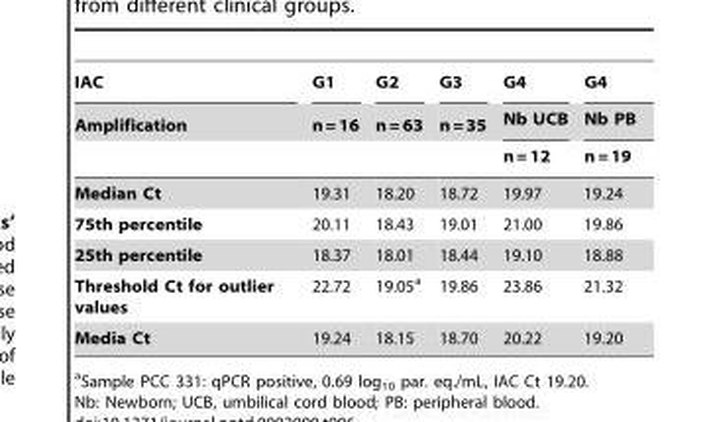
<table><thead><tr><td rowspan="3">IAC Amplification</td><td rowspan="3">G1 n = 16</td><td rowspan="3">G2 n = 63</td><td rowspan="3">G3 n = 35</td><td rowspan="3">G4 Nb UCB n = 12</td><td rowspan="3">G4 Nb PB n = 19</td></tr><tr></tr><tr></tr></thead><tbody><tr><td>Median Ct</td><td>19.31</td><td>18.20</td><td>18.72</td><td>19.97</td><td>19.24</td></tr><tr><td>75th percentile</td><td>20.11</td><td>18.43</td><td>19.01</td><td>21.00</td><td>19.86</td></tr><tr><td>25th percentile</td><td>18.37</td><td>18.01</td><td>18.44</td><td>19.10</td><td>18.88</td></tr><tr><td>Threshold Ct for outlier values</td><td>22.72</td><td>19.05<sup>a</sup></td><td>19.86</td><td>23.86</td><td>21.32</td></tr><tr><td>Media Ct</td><td>19.24</td><td>18.15</td><td>18.70</td><td>20.22</td><td>19.20</td></tr></tbody></table>